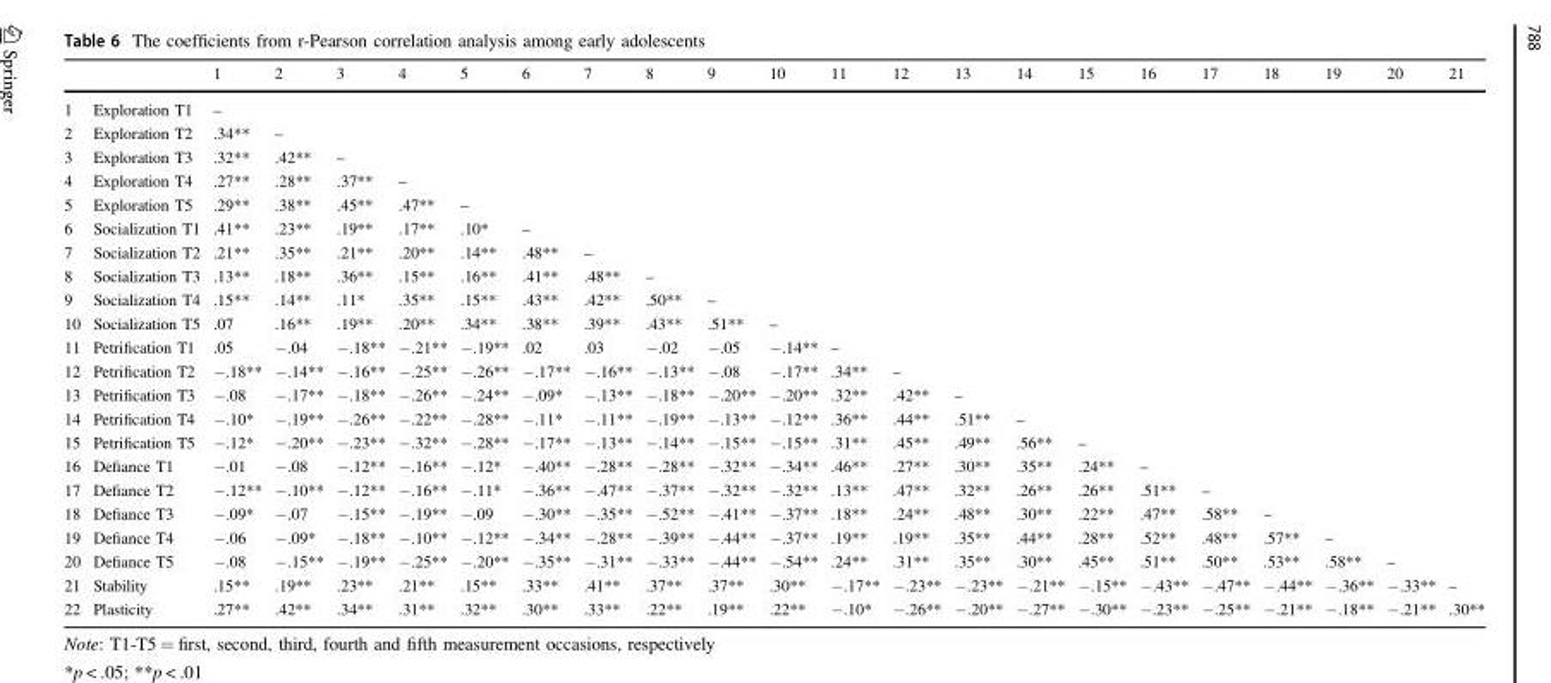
<table><thead><tr><td></td><td></td><td>1</td><td>2</td><td>3</td><td>4</td><td>5</td><td>6</td><td>7</td><td>8</td><td>9</td><td>10</td><td>11</td><td>12</td><td>13</td><td>14</td><td>15</td><td>16</td><td>17</td><td>18</td><td>19</td><td>20</td><td>21</td></tr></thead><tbody><tr><td>1</td><td>Exploration T1</td><td>–</td><td></td><td></td><td></td><td></td><td></td><td></td><td></td><td></td><td></td><td></td><td></td><td></td><td></td><td></td><td></td><td></td><td></td><td></td><td></td><td></td></tr><tr><td>2</td><td>Exploration T2</td><td>.34**</td><td>–</td><td></td><td></td><td></td><td></td><td></td><td></td><td></td><td></td><td></td><td></td><td></td><td></td><td></td><td></td><td></td><td></td><td></td><td></td><td></td></tr><tr><td>3</td><td>Exploration T3</td><td>.32**</td><td>.42**</td><td>–</td><td></td><td></td><td></td><td></td><td></td><td></td><td></td><td></td><td></td><td></td><td></td><td></td><td></td><td></td><td></td><td></td><td></td><td></td></tr><tr><td>4</td><td>Exploration T4</td><td>.27**</td><td>.28**</td><td>.37**</td><td>–</td><td></td><td></td><td></td><td></td><td></td><td></td><td></td><td></td><td></td><td></td><td></td><td></td><td></td><td></td><td></td><td></td><td></td></tr><tr><td>5</td><td>Exploration T5</td><td>.29**</td><td>.38**</td><td>.45**</td><td>.47**</td><td>–</td><td></td><td></td><td></td><td></td><td></td><td></td><td></td><td></td><td></td><td></td><td></td><td></td><td></td><td></td><td></td><td></td></tr><tr><td>6</td><td>Socialization T1</td><td>.41**</td><td>.23**</td><td>.19**</td><td>.17**</td><td>.10*</td><td>–</td><td></td><td></td><td></td><td></td><td></td><td></td><td></td><td></td><td></td><td></td><td></td><td></td><td></td><td></td><td></td></tr><tr><td>7</td><td>Socialization T2</td><td>.21**</td><td>.35**</td><td>.21**</td><td>.20**</td><td>.14**</td><td>.48**</td><td>–</td><td></td><td></td><td></td><td></td><td></td><td></td><td></td><td></td><td></td><td></td><td></td><td></td><td></td><td></td></tr><tr><td>8</td><td>Socialization T3</td><td>.13**</td><td>.18**</td><td>.36**</td><td>.15**</td><td>.16**</td><td>.41**</td><td>.48**</td><td>–</td><td></td><td></td><td></td><td></td><td></td><td></td><td></td><td></td><td></td><td></td><td></td><td></td><td></td></tr><tr><td>9</td><td>Socialization T4</td><td>.15**</td><td>.14**</td><td>.11*</td><td>.35**</td><td>.15**</td><td>.43**</td><td>.42**</td><td>.50**</td><td>–</td><td></td><td></td><td></td><td></td><td></td><td></td><td></td><td></td><td></td><td></td><td></td><td></td></tr><tr><td>10</td><td>Socialization T5</td><td>.07</td><td>.16**</td><td>.19**</td><td>.20**</td><td>.34**</td><td>.38**</td><td>.39**</td><td>.43**</td><td>.51**</td><td>–</td><td></td><td></td><td></td><td></td><td></td><td></td><td></td><td></td><td></td><td></td><td></td></tr><tr><td>11</td><td>Petrification T1</td><td>.05</td><td>−.04</td><td>−.18**</td><td>−.21**</td><td>−.19**</td><td>.02</td><td>.03</td><td>−.02</td><td>−.05</td><td>−.14**</td><td>–</td><td></td><td></td><td></td><td></td><td></td><td></td><td></td><td></td><td></td><td></td></tr><tr><td>12</td><td>Petrification T2</td><td>−.18**</td><td>−.14**</td><td>−.16**</td><td>−.25**</td><td>−.26**</td><td>−.17**</td><td>−.16**</td><td>−.13**</td><td>−.08</td><td>−.17**</td><td>.34**</td><td>–</td><td></td><td></td><td></td><td></td><td></td><td></td><td></td><td></td><td></td></tr><tr><td>13</td><td>Petrification T3</td><td>−.08</td><td>−.17**</td><td>−.18**</td><td>−.26**</td><td>−.24**</td><td>−.09*</td><td>−.13**</td><td>−.18**</td><td>−.20**</td><td>−.20**</td><td>.32**</td><td>.42**</td><td>–</td><td></td><td></td><td></td><td></td><td></td><td></td><td></td><td></td></tr><tr><td>14</td><td>Petrification T4</td><td>−.10*</td><td>−.19**</td><td>−.26**</td><td>−.22**</td><td>−.28**</td><td>−.11*</td><td>−.11**</td><td>−.19**</td><td>−.13**</td><td>−.12**</td><td>.36**</td><td>.44**</td><td>.51**</td><td>–</td><td></td><td></td><td></td><td></td><td></td><td></td><td></td></tr><tr><td>15</td><td>Petrification T5</td><td>−.12*</td><td>−.20**</td><td>−.23**</td><td>−.32**</td><td>−.28**</td><td>−.17**</td><td>−.13**</td><td>−.14**</td><td>−.15**</td><td>−.15**</td><td>.31**</td><td>.45**</td><td>.49**</td><td>.56**</td><td>–</td><td></td><td></td><td></td><td></td><td></td><td></td></tr><tr><td>16</td><td>Defiance T1</td><td>−.01</td><td>−.08</td><td>−.12**</td><td>−.16**</td><td>−.12*</td><td>−.40**</td><td>−.28**</td><td>−.28**</td><td>−.32**</td><td>−.34**</td><td>.46**</td><td>.27**</td><td>.30**</td><td>.35**</td><td>.24**</td><td>–</td><td></td><td></td><td></td><td></td><td></td></tr><tr><td>17</td><td>Defiance T2</td><td>−.12**</td><td>−.10**</td><td>−.12**</td><td>−.16**</td><td>−.11*</td><td>−.36**</td><td>−.47**</td><td>−.37**</td><td>−.32**</td><td>−.32**</td><td>.13**</td><td>.47**</td><td>.32**</td><td>.26**</td><td>.26**</td><td>.51**</td><td>–</td><td></td><td></td><td></td><td></td></tr><tr><td>18</td><td>Defiance T3</td><td>−.09*</td><td>−.07</td><td>−.15**</td><td>−.19**</td><td>−.09</td><td>−.30**</td><td>−.35**</td><td>−.52**</td><td>−.41**</td><td>−.37**</td><td>.18**</td><td>.24**</td><td>.48**</td><td>.30**</td><td>.22**</td><td>.47**</td><td>.58**</td><td>–</td><td></td><td></td><td></td></tr><tr><td>19</td><td>Defiance T4</td><td>−.06</td><td>−.09*</td><td>−.18**</td><td>−.10**</td><td>−.12**</td><td>−.34**</td><td>−.28**</td><td>−.39**</td><td>−.44**</td><td>−.37**</td><td>.19**</td><td>.19**</td><td>.35**</td><td>.44**</td><td>.28**</td><td>.52**</td><td>.48**</td><td>.57**</td><td>–</td><td></td><td></td></tr><tr><td>20</td><td>Defiance T5</td><td>−.08</td><td>−.15**</td><td>−.19**</td><td>−.25**</td><td>−.20**</td><td>−.35**</td><td>−.31**</td><td>−.33**</td><td>−.44**</td><td>−.54**</td><td>.24**</td><td>.31**</td><td>.35**</td><td>.30**</td><td>.45**</td><td>.51**</td><td>.50**</td><td>.53**</td><td>.58**</td><td>–</td><td></td></tr><tr><td>21</td><td>Stability</td><td>.15**</td><td>.19**</td><td>.23**</td><td>.21**</td><td>.15**</td><td>.33**</td><td>.41**</td><td>.37**</td><td>.37**</td><td>.30**</td><td>−.17**</td><td>−.23**</td><td>−.23**</td><td>−.21**</td><td>−.15**</td><td>−.43**</td><td>−.47**</td><td>−.44**</td><td>−.36**</td><td>−.33**</td><td>–</td></tr><tr><td>22</td><td>Plasticity</td><td>.27**</td><td>.42**</td><td>.34**</td><td>.31**</td><td>.32**</td><td>.30**</td><td>.33**</td><td>.22**</td><td>.19**</td><td>.22**</td><td>−.10*</td><td>−.26**</td><td>−.20**</td><td>−.27**</td><td>−.30**</td><td>−.23**</td><td>−.25**</td><td>−.21**</td><td>−.18**</td><td>−.21**</td><td>.30**</td></tr></tbody></table>